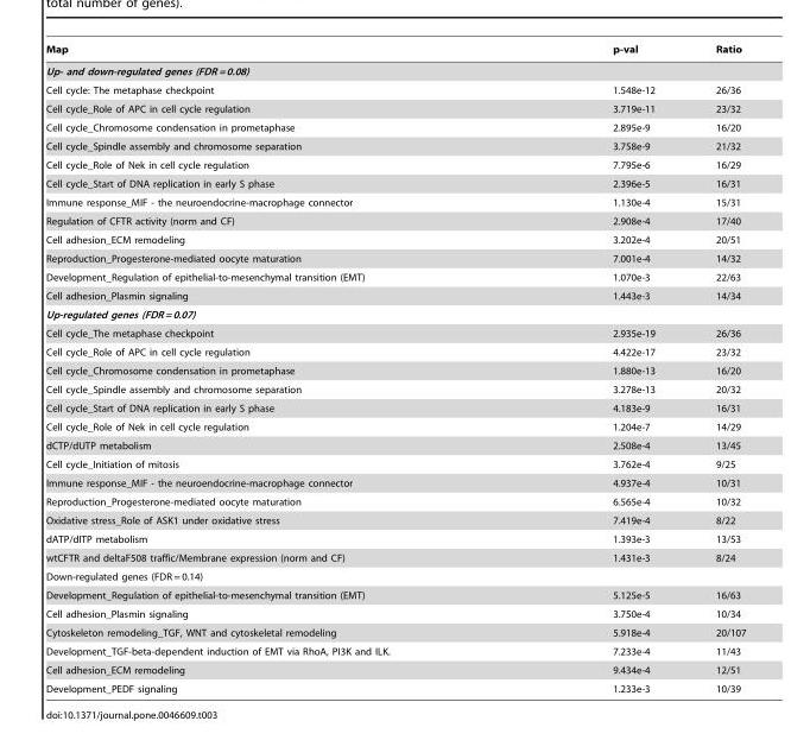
<table><thead><tr><td>Map</td><td>p-val</td><td>Ratio</td></tr></thead><tbody><tr><td colspan="3">Up- and down-regulated genes (FDR = 0.08)</td></tr><tr><td>Cell cycle: The metaphase checkpoint</td><td>1.548e-12</td><td>26/36</td></tr><tr><td>Cell cycle_Role of APC in cell cycle regulation</td><td>3.719e-11</td><td>23/32</td></tr><tr><td>Cell cycle_Chromosome condensation in prometaphase</td><td>2.895e-9</td><td>16/20</td></tr><tr><td>Cell cycle_Spindle assembly and chromosome separation</td><td>3.758e-9</td><td>21/32</td></tr><tr><td>Cell cycle_Role of Nek in cell cycle regulation</td><td>7.795e-6</td><td>16/29</td></tr><tr><td>Cell cycle_Start of DNA replication in early S phase</td><td>2.396e-5</td><td>16/31</td></tr><tr><td>Immune response_MIF - the neuroendocrine-macrophage connector</td><td>1.130e-4</td><td>15/31</td></tr><tr><td>Regulation of CFTR activity (norm and CF)</td><td>2.908e-4</td><td>17/40</td></tr><tr><td>Cell adhesion_ECM remodeling</td><td>3.202e-4</td><td>20/51</td></tr><tr><td>Reproduction_Progesterone-mediated oocyte maturation</td><td>7.001e-4</td><td>14/32</td></tr><tr><td>Development_Regulation of epithelial-to-mesenchymal transition (EMT)</td><td>1.070e-3</td><td>22/63</td></tr><tr><td>Cell adhesion_Plasmin signaling</td><td>1.443e-3</td><td>14/34</td></tr><tr><td colspan="3">Up-regulated genes (FDR = 0.07)</td></tr><tr><td>Cell cycle_The metaphase checkpoint</td><td>2.935e-19</td><td>26/36</td></tr><tr><td>Cell cycle_Role of APC in cell cycle regulation</td><td>4.422e-17</td><td>23/32</td></tr><tr><td>Cell cycle_Chromosome condensation in prometaphase</td><td>1.880e-13</td><td>16/20</td></tr><tr><td>Cell cycle_Spindle assembly and chromosome separation</td><td>3.278e-13</td><td>20/32</td></tr><tr><td>Cell cycle_Start of DNA replication in early S phase</td><td>4.183e-9</td><td>16/31</td></tr><tr><td>Cell cycle_Role of Nek in cell cycle regulation</td><td>1.204e-7</td><td>14/29</td></tr><tr><td>dCTP/dUTP metabolism</td><td>2.508e-4</td><td>13/45</td></tr><tr><td>Cell cycle_Initiation of mitosis</td><td>3.762e-4</td><td>9/25</td></tr><tr><td>Immune response_MIF - the neuroendocrine-macrophage connector</td><td>4.937e-4</td><td>10/31</td></tr><tr><td>Reproduction_Progesterone-mediated oocyte maturation</td><td>6.565e-4</td><td>10/32</td></tr><tr><td>Oxidative stress_Role of ASK1 under oxidative stress</td><td>7.419e-4</td><td>8/22</td></tr><tr><td>dATP/dITP metabolism</td><td>1.393e-3</td><td>13/53</td></tr><tr><td>wtCFTR and deltaF508 traffic/Membrane expression (norm and CF)</td><td>1.431e-3</td><td>8/24</td></tr><tr><td colspan="3">Down-regulated genes (FDR = 0.14)</td></tr><tr><td>Development_Regulation of epithelial-to-mesenchymal transition (EMT)</td><td>5.125e-5</td><td>16/63</td></tr><tr><td>Cell adhesion_Plasmin signaling</td><td>3.750e-4</td><td>10/34</td></tr><tr><td>Cytoskeleton remodeling_TGF, WNT and cytoskeletal remodeling</td><td>5.918e-4</td><td>20/107</td></tr><tr><td>Development_TGF-beta-dependent induction of EMT via RhoA, PI3K and ILK.</td><td>7.233e-4</td><td>11/43</td></tr><tr><td>Cell adhesion_ECM remodeling</td><td>9.434e-4</td><td>12/51</td></tr><tr><td>Development_PEDF signaling</td><td>1.233e-3</td><td>10/39</td></tr></tbody></table>